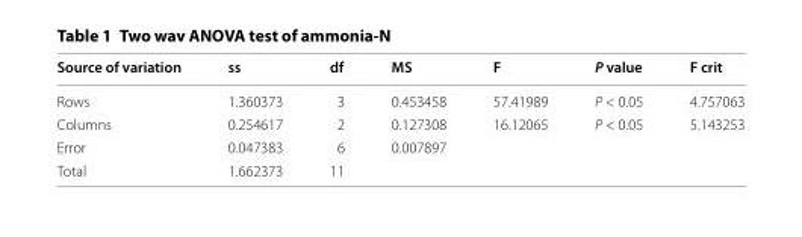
<table><thead><tr><td>Source of variation</td><td>ss</td><td>df</td><td>MS</td><td>F</td><td>P value</td><td>F crit</td></tr></thead><tbody><tr><td>Rows</td><td>1.360373</td><td>3</td><td>0.453458</td><td>57.41989</td><td>P &lt; 0.05</td><td>4.757063</td></tr><tr><td>Columns</td><td>0.254617</td><td>2</td><td>0.127308</td><td>16.12065</td><td>P &lt; 0.05</td><td>5.143253</td></tr><tr><td>Error</td><td>0.047383</td><td>6</td><td>0.007897</td><td></td><td></td><td></td></tr><tr><td>Total</td><td>1.662373</td><td>11</td><td></td><td></td><td></td><td></td></tr></tbody></table>